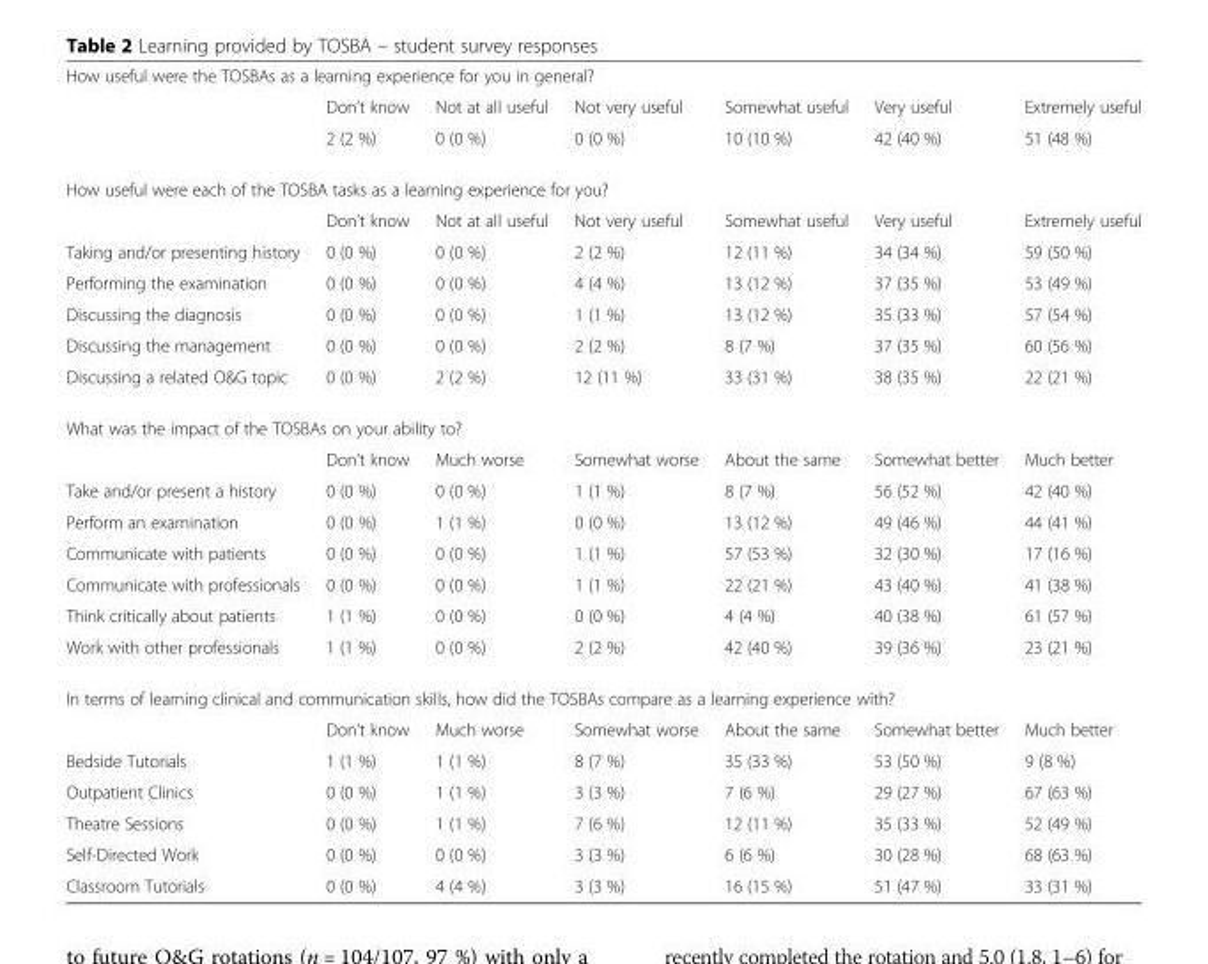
<table><tbody><tr><td colspan="7">How useful were the TOSBAs as a learning experience for you in general?</td></tr><tr><td></td><td>Don’t know</td><td>Not at all useful</td><td>Not very useful</td><td>Somewhat useful</td><td>Very useful</td><td>Extremely useful</td></tr><tr><td></td><td>2 (2 %)</td><td>0 (0 %)</td><td>0 (0 %)</td><td>10 (10 %)</td><td>42 (40 %)</td><td>51 (48 %)</td></tr><tr><td colspan="7">How useful were each of the TOSBA tasks as a learning experience for you?</td></tr><tr><td></td><td>Don’t know</td><td>Not at all useful</td><td>Not very useful</td><td>Somewhat useful</td><td>Very useful</td><td>Extremely useful</td></tr><tr><td>Taking and/or presenting history</td><td>0 (0 %)</td><td>0 (0 %)</td><td>2 (2 %)</td><td>12 (11 %)</td><td>34 (34 %)</td><td>59 (50 %)</td></tr><tr><td>Performing the examination</td><td>0 (0 %)</td><td>0 (0 %)</td><td>4 (4 %)</td><td>13 (12 %)</td><td>37 (35 %)</td><td>53 (49 %)</td></tr><tr><td>Discussing the diagnosis</td><td>0 (0 %)</td><td>0 (0 %)</td><td>1 (1 %)</td><td>13 (12 %)</td><td>35 (33 %)</td><td>57 (54 %)</td></tr><tr><td>Discussing the management</td><td>0 (0 %)</td><td>0 (0 %)</td><td>2 (2 %)</td><td>8 (7 %)</td><td>37 (35 %)</td><td>60 (56 %)</td></tr><tr><td>Discussing a related O&amp;G topic</td><td>0 (0 %)</td><td>2 (2 %)</td><td>12 (11 %)</td><td>33 (31 %)</td><td>38 (35 %)</td><td>22 (21 %)</td></tr><tr><td colspan="7">What was the impact of the TOSBAs on your ability to?</td></tr><tr><td></td><td>Don’t know</td><td>Much worse</td><td>Somewhat worse</td><td>About the same</td><td>Somewhat better</td><td>Much better</td></tr><tr><td>Take and/or present a history</td><td>0 (0 %)</td><td>0 (0 %)</td><td>1 (1 %)</td><td>8 (7 %)</td><td>56 (52 %)</td><td>42 (40 %)</td></tr><tr><td>Perform an examination</td><td>0 (0 %)</td><td>1 (1 %)</td><td>0 (0 %)</td><td>13 (12 %)</td><td>49 (46 %)</td><td>44 (41 %)</td></tr><tr><td>Communicate with patients</td><td>0 (0 %)</td><td>0 (0 %)</td><td>1 (1 %)</td><td>57 (53 %)</td><td>32 (30 %)</td><td>17 (16 %)</td></tr><tr><td>Communicate with professionals</td><td>0 (0 %)</td><td>0 (0 %)</td><td>1 (1 %)</td><td>22 (21 %)</td><td>43 (40 %)</td><td>41 (38 %)</td></tr><tr><td>Think critically about patients</td><td>1 (1 %)</td><td>0 (0 %)</td><td>0 (0 %)</td><td>4 (4 %)</td><td>40 (38 %)</td><td>61 (57 %)</td></tr><tr><td>Work with other professionals</td><td>1 (1 %)</td><td>0 (0 %)</td><td>2 (2 %)</td><td>42 (40 %)</td><td>39 (36 %)</td><td>23 (21 %)</td></tr><tr><td colspan="7">In terms of learning clinical and communication skills, how did the TOSBAs compare as a learning experience with?</td></tr><tr><td></td><td>Don’t know</td><td>Much worse</td><td>Somewhat worse</td><td>About the same</td><td>Somewhat better</td><td>Much better</td></tr><tr><td>Bedside Tutorials</td><td>1 (1 %)</td><td>1 (1 %)</td><td>8 (7 %)</td><td>35 (33 %)</td><td>53 (50 %)</td><td>9 (8 %)</td></tr><tr><td>Outpatient Clinics</td><td>0 (0 %)</td><td>1 (1 %)</td><td>3 (3 %)</td><td>7 (6 %)</td><td>29 (27 %)</td><td>67 (63 %)</td></tr><tr><td>Theatre Sessions</td><td>0 (0 %)</td><td>1 (1 %)</td><td>7 (6 %)</td><td>12 (11 %)</td><td>35 (33 %)</td><td>52 (49 %)</td></tr><tr><td>Self-Directed Work</td><td>0 (0 %)</td><td>0 (0 %)</td><td>3 (3 %)</td><td>6 (6 %)</td><td>30 (28 %)</td><td>68 (63 %)</td></tr><tr><td>Classroom Tutorials</td><td>0 (0 %)</td><td>4 (4 %)</td><td>3 (3 %)</td><td>16 (15 %)</td><td>51 (47 %)</td><td>33 (31 %)</td></tr></tbody></table>